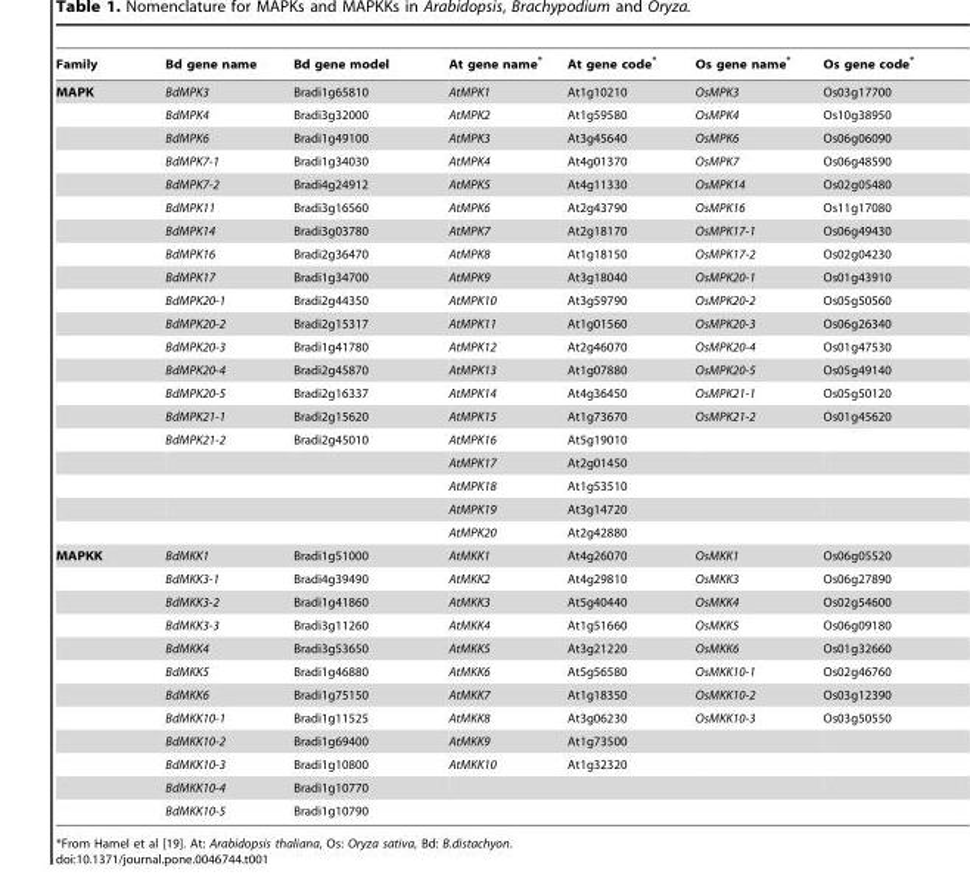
<table><thead><tr><td>Family</td><td>Bd gene name</td><td>Bd gene model</td><td>At gene name*</td><td>At gene code*</td><td>Os gene name*</td><td>Os gene code*</td></tr></thead><tbody><tr><td rowspan="20">MAPK</td><td>BdMPK3</td><td>Bradi1g65810</td><td>AtMPK1</td><td>At1g10210</td><td>OsMPK3</td><td>Os03g17700</td></tr><tr><td>BdMPK4</td><td>Bradi3g32000</td><td>AtMPK2</td><td>At1g59580</td><td>OsMPK4</td><td>Os10g38950</td></tr><tr><td>BdMPK6</td><td>Bradi1g49100</td><td>AtMPK3</td><td>At3g45640</td><td>OsMPK6</td><td>Os06g06090</td></tr><tr><td>BdMPK7-1</td><td>Bradi1g34030</td><td>AtMPK4</td><td>At4g01370</td><td>OsMPK7</td><td>Os06g48590</td></tr><tr><td>BdMPK7-2</td><td>Bradi4g24912</td><td>AtMPK5</td><td>At4g11330</td><td>OsMPK14</td><td>Os02g05480</td></tr><tr><td>BdMPK11</td><td>Bradi3g16560</td><td>AtMPK6</td><td>At2g43790</td><td>OsMPK16</td><td>Os11g17080</td></tr><tr><td>BdMPK14</td><td>Bradi3g03780</td><td>AtMPK7</td><td>At2g18170</td><td>OsMPK17-1</td><td>Os06g49430</td></tr><tr><td>BdMPK16</td><td>Bradi2g36470</td><td>AtMPK8</td><td>At1g18150</td><td>OsMPK17-2</td><td>Os02g04230</td></tr><tr><td>BdMPK17</td><td>Bradi1g34700</td><td>AtMPK9</td><td>At3g18040</td><td>OsMPK20-1</td><td>Os01g43910</td></tr><tr><td>BdMPK20-1</td><td>Bradi2g44350</td><td>AtMPK10</td><td>At3g59790</td><td>OsMPK20-2</td><td>Os05g50560</td></tr><tr><td>BdMPK20-2</td><td>Bradi2g15317</td><td>AtMPK11</td><td>At1g01560</td><td>OsMPK20-3</td><td>Os06g26340</td></tr><tr><td>BdMPK20-3</td><td>Bradi1g41780</td><td>AtMPK12</td><td>At2g46070</td><td>OsMPK20-4</td><td>Os01g47530</td></tr><tr><td>BdMPK20-4</td><td>Bradi2g45870</td><td>AtMPK13</td><td>At1g07880</td><td>OsMPK20-5</td><td>Os05g49140</td></tr><tr><td>BdMPK20-5</td><td>Bradi2g16337</td><td>AtMPK14</td><td>At4g36450</td><td>OsMPK21-1</td><td>Os05g50120</td></tr><tr><td>BdMPK21-1</td><td>Bradi2g15620</td><td>AtMPK15</td><td>At1g73670</td><td>OsMPK21-2</td><td>Os01g45620</td></tr><tr><td>BdMPK21-2</td><td>Bradi2g45010</td><td>AtMPK16</td><td>At5g19010</td><td></td><td></td></tr><tr><td></td><td></td><td>AtMPK17</td><td>At2g01450</td><td></td><td></td></tr><tr><td></td><td></td><td>AtMPK18</td><td>At1g53510</td><td></td><td></td></tr><tr><td></td><td></td><td>AtMPK19</td><td>At3g14720</td><td></td><td></td></tr><tr><td></td><td></td><td>AtMPK20</td><td>At2g42880</td><td></td><td></td></tr><tr><td rowspan="12">MAPKK</td><td>BdMKK1</td><td>Bradi1g51000</td><td>AtMKK1</td><td>At4g26070</td><td>OsMKK1</td><td>Os06g05520</td></tr><tr><td>BdMKK3-1</td><td>Bradi4g39490</td><td>AtMKK2</td><td>At4g29810</td><td>OsMKK3</td><td>Os06g27890</td></tr><tr><td>BdMKK3-2</td><td>Bradi1g41860</td><td>AtMKK3</td><td>At5g40440</td><td>OsMKK4</td><td>Os02g54600</td></tr><tr><td>BdMKK3-3</td><td>Bradi3g11260</td><td>AtMKK4</td><td>At1g51660</td><td>OsMKK5</td><td>Os06g09180</td></tr><tr><td>BdMKK4</td><td>Bradi3g53650</td><td>AtMKK5</td><td>At3g21220</td><td>OsMKK6</td><td>Os01g32660</td></tr><tr><td>BdMKK5</td><td>Bradi1g46880</td><td>AtMKK6</td><td>At5g56580</td><td>OsMKK10-1</td><td>Os02g46760</td></tr><tr><td>BdMKK6</td><td>Bradi1g75150</td><td>AtMKK7</td><td>At1g18350</td><td>OsMKK10-2</td><td>Os03g12390</td></tr><tr><td>BdMKK10-1</td><td>Bradi1g11525</td><td>AtMKK8</td><td>At3g06230</td><td>OsMKK10-3</td><td>Os03g50550</td></tr><tr><td>BdMKK10-2</td><td>Bradi1g69400</td><td>AtMKK9</td><td>At1g73500</td><td></td><td></td></tr><tr><td>BdMKK10-3</td><td>Bradi1g10800</td><td>AtMKK10</td><td>At1g32320</td><td></td><td></td></tr><tr><td>BdMKK10-4</td><td>Bradi1g10770</td><td></td><td></td><td></td><td></td></tr><tr><td>BdMKK10-5</td><td>Bradi1g10790</td><td></td><td></td><td></td><td></td></tr></tbody></table>